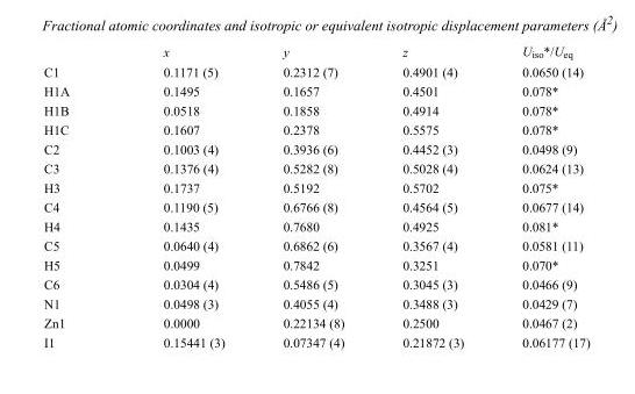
<table><thead><tr><td></td><td>x</td><td>y</td><td>z</td><td>U<sub>iso</sub>*/U<sub>eq</sub></td></tr></thead><tbody><tr><td>C1</td><td>0.1171 (5)</td><td>0.2312 (7)</td><td>0.4901 (4)</td><td>0.0650 (14)</td></tr><tr><td>H1A</td><td>0.1495</td><td>0.1657</td><td>0.4501</td><td>0.078*</td></tr><tr><td>H1B</td><td>0.0518</td><td>0.1858</td><td>0.4914</td><td>0.078*</td></tr><tr><td>H1C</td><td>0.1607</td><td>0.2378</td><td>0.5575</td><td>0.078*</td></tr><tr><td>C2</td><td>0.1003 (4)</td><td>0.3936 (6)</td><td>0.4452 (3)</td><td>0.0498 (9)</td></tr><tr><td>C3</td><td>0.1376 (4)</td><td>0.5282 (8)</td><td>0.5028 (4)</td><td>0.0624 (13)</td></tr><tr><td>H3</td><td>0.1737</td><td>0.5192</td><td>0.5702</td><td>0.075*</td></tr><tr><td>C4</td><td>0.1190 (5)</td><td>0.6766 (8)</td><td>0.4564 (5)</td><td>0.0677 (14)</td></tr><tr><td>H4</td><td>0.1435</td><td>0.7680</td><td>0.4925</td><td>0.081*</td></tr><tr><td>C5</td><td>0.0640 (4)</td><td>0.6862 (6)</td><td>0.3567 (4)</td><td>0.0581 (11)</td></tr><tr><td>H5</td><td>0.0499</td><td>0.7842</td><td>0.3251</td><td>0.070*</td></tr><tr><td>C6</td><td>0.0304 (4)</td><td>0.5486 (5)</td><td>0.3045 (3)</td><td>0.0466 (9)</td></tr><tr><td>N1</td><td>0.0498 (3)</td><td>0.4055 (4)</td><td>0.3488 (3)</td><td>0.0429 (7)</td></tr><tr><td>Zn1</td><td>0.0000</td><td>0.22134 (8)</td><td>0.2500</td><td>0.0467 (2)</td></tr><tr><td>I1</td><td>0.15441 (3)</td><td>0.07347 (4)</td><td>0.21872 (3)</td><td>0.06177 (17)</td></tr></tbody></table>